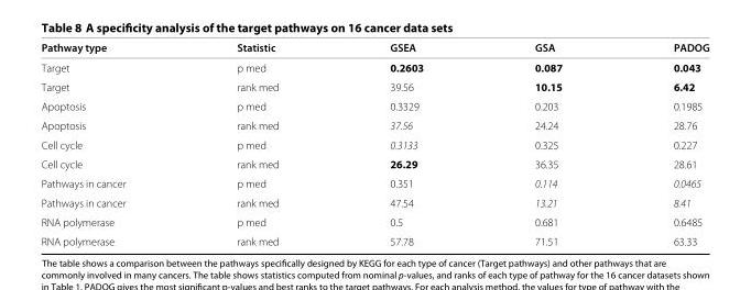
<table><thead><tr><td>Pathway type</td><td>Statistic</td><td>GSEA</td><td>GSA</td><td>PADOG</td></tr></thead><tbody><tr><td>Target</td><td>p med</td><td>0.2603</td><td>0.087</td><td>0.043</td></tr><tr><td>Target</td><td>rank med</td><td>39.56</td><td>10.15</td><td>6.42</td></tr><tr><td>Apoptosis</td><td>p med</td><td>0.3329</td><td>0.203</td><td>0.1985</td></tr><tr><td>Apoptosis</td><td>rank med</td><td>37.56</td><td>24.24</td><td>28.76</td></tr><tr><td>Cell cycle</td><td>p med</td><td>0.3133</td><td>0.325</td><td>0.227</td></tr><tr><td>Cell cycle</td><td>rank med</td><td>26.29</td><td>36.35</td><td>28.61</td></tr><tr><td>Pathways in cancer</td><td>p med</td><td>0.351</td><td>0.114</td><td>0.0465</td></tr><tr><td>Pathways in cancer</td><td>rank med</td><td>47.54</td><td>13.21</td><td>8.41</td></tr><tr><td>RNA polymerase</td><td>p med</td><td>0.5</td><td>0.681</td><td>0.6485</td></tr><tr><td>RNA polymerase</td><td>rank med</td><td>57.78</td><td>71.51</td><td>63.33</td></tr></tbody></table>